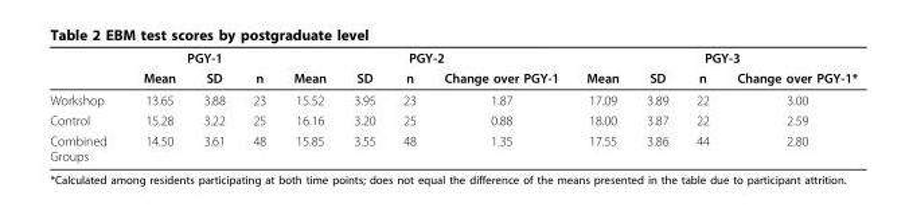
<table><thead><tr><td rowspan="2"></td><td colspan="3">PGY-1</td><td colspan="4">PGY-2</td><td colspan="4">PGY-3</td></tr><tr><td>Mean</td><td>SD</td><td>n</td><td>Mean</td><td>SD</td><td>n</td><td>Change over PGY-1</td><td>Mean</td><td>SD</td><td>n</td><td>Change over PGY-1*</td></tr></thead><tbody><tr><td>Workshop</td><td>13.65</td><td>3.88</td><td>23</td><td>15.52</td><td>3.95</td><td>23</td><td>1.87</td><td>17.09</td><td>3.89</td><td>22</td><td>3.00</td></tr><tr><td>Control</td><td>15.28</td><td>3.22</td><td>25</td><td>16.16</td><td>3.20</td><td>25</td><td>0.88</td><td>18.00</td><td>3.87</td><td>22</td><td>2.59</td></tr><tr><td>Combined Groups</td><td>14.50</td><td>3.61</td><td>48</td><td>15.85</td><td>3.55</td><td>48</td><td>1.35</td><td>17.55</td><td>3.86</td><td>44</td><td>2.80</td></tr></tbody></table>